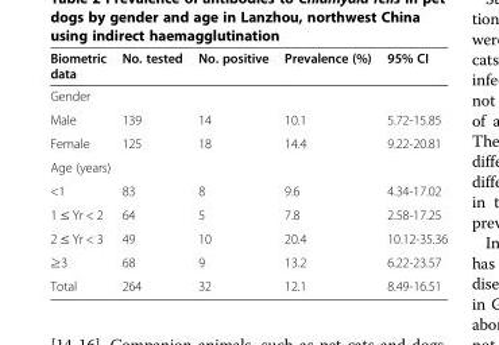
<table><thead><tr><td>Biometric data</td><td>No. tested</td><td>No. positive</td><td>Prevalence (%)</td><td>95% CI</td></tr></thead><tbody><tr><td colspan="5">Gender</td></tr><tr><td>Male</td><td>139</td><td>14</td><td>10.1</td><td>5.72-15.85</td></tr><tr><td>Female</td><td>125</td><td>18</td><td>14.4</td><td>9.22-20.81</td></tr><tr><td colspan="5">Age (years)</td></tr><tr><td>&lt;1</td><td>83</td><td>8</td><td>9.6</td><td>4.34-17.02</td></tr><tr><td>1 ≤ Yr &lt; 2</td><td>64</td><td>5</td><td>7.8</td><td>2.58-17.25</td></tr><tr><td>2 ≤ Yr &lt; 3</td><td>49</td><td>10</td><td>20.4</td><td>10.12-35.36</td></tr><tr><td>≥3</td><td>68</td><td>9</td><td>13.2</td><td>6.22-23.57</td></tr><tr><td>Total</td><td>264</td><td>32</td><td>12.1</td><td>8.49-16.51</td></tr></tbody></table>